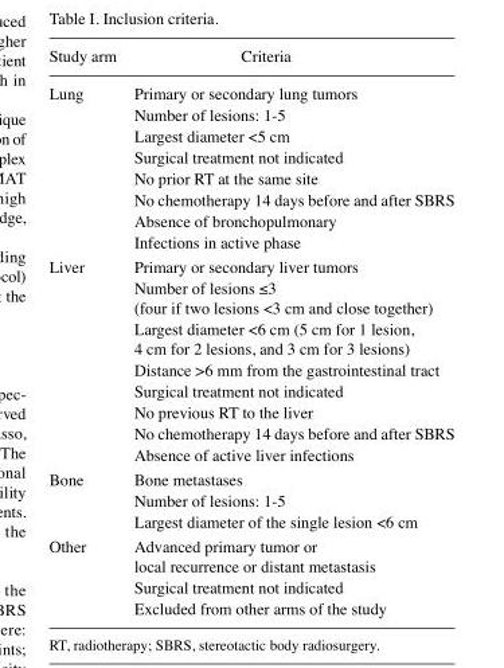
<table><thead><tr><td>Study arm</td><td>Criteria</td></tr></thead><tbody><tr><td rowspan="8">Lung</td><td>Primary or secondary lung tumors</td></tr><tr><td>Number of lesions: 1-5</td></tr><tr><td>Largest diameter &lt;5 cm</td></tr><tr><td>Surgical treatment not indicated</td></tr><tr><td>No prior RT at the same site</td></tr><tr><td>No chemotherapy 14 days before and after SBRS</td></tr><tr><td>Absence of bronchopulmonary</td></tr><tr><td>Infections in active phase</td></tr><tr><td rowspan="8">Liver</td><td>Primary or secondary liver tumors</td></tr><tr><td>Number of lesions ≤3 (four if two lesions &lt;3 cm and close together)</td></tr><tr><td>Largest diameter &lt;6 cm (5 cm for 1 lesion, 4 cm for 2 lesions, and 3 cm for 3 lesions)</td></tr><tr><td>Distance &gt;6 mm from the gastrointestinal tract</td></tr><tr><td>Surgical treatment not indicated</td></tr><tr><td>No previous RT to the liver</td></tr><tr><td>No chemotherapy 14 days before and after SBRS</td></tr><tr><td>Absence of active liver infections</td></tr><tr><td rowspan="3">Bone</td><td>Bone metastases</td></tr><tr><td>Number of lesions: 1-5</td></tr><tr><td>Largest diameter of the single lesion &lt;6 cm</td></tr><tr><td rowspan="3">Other</td><td>Advanced primary tumor or local recurrence or distant metastasis</td></tr><tr><td>Surgical treatment not indicated</td></tr><tr><td>Excluded from other arms of the study</td></tr></tbody></table>